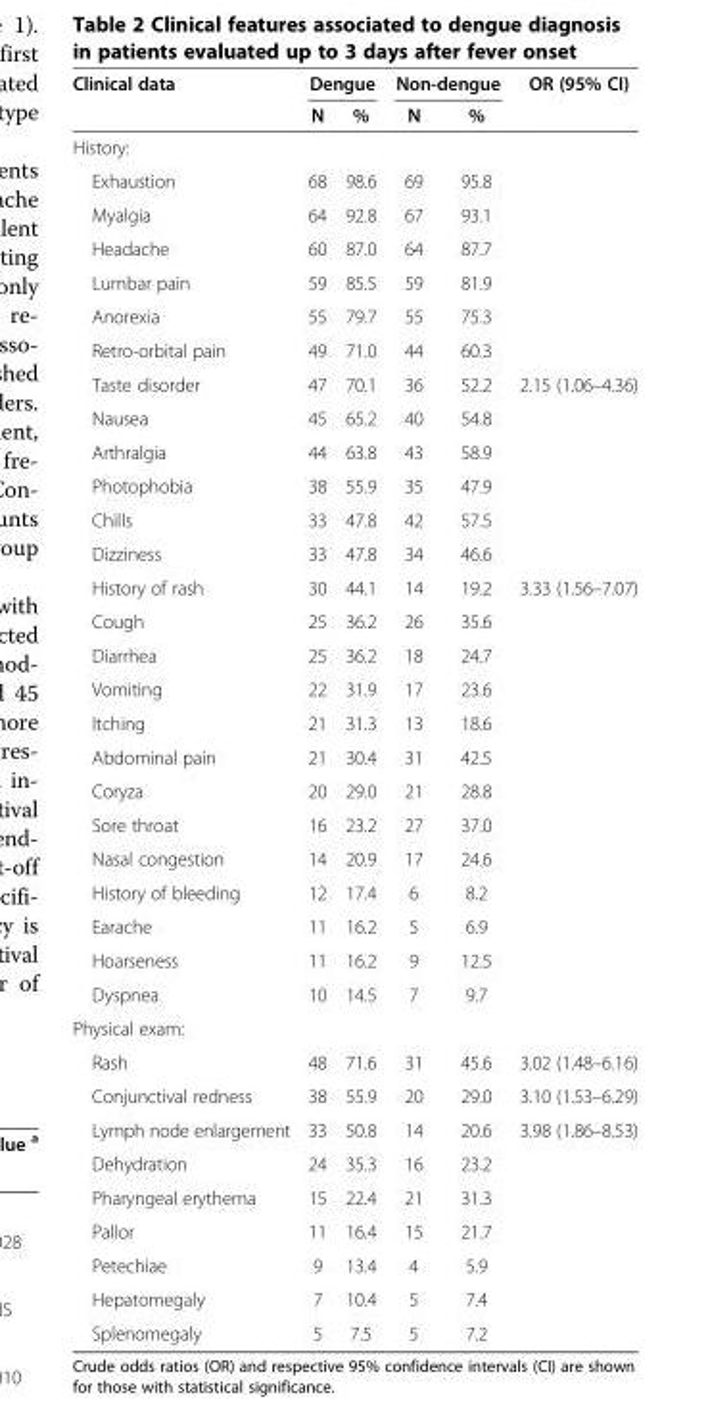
<table><thead><tr><td rowspan="2">Clinical data</td><td colspan="2">Dengue</td><td colspan="2">Non-dengue</td><td rowspan="2">OR (95% CI)</td></tr><tr><td>N</td><td>%</td><td>N</td><td>%</td></tr></thead><tbody><tr><td colspan="6">History:</td></tr><tr><td>Exhaustion</td><td>68</td><td>98.6</td><td>69</td><td>95.8</td><td></td></tr><tr><td>Myalgia</td><td>64</td><td>92.8</td><td>67</td><td>93.1</td><td></td></tr><tr><td>Headache</td><td>60</td><td>87.0</td><td>64</td><td>87.7</td><td></td></tr><tr><td>Lumbar pain</td><td>59</td><td>85.5</td><td>59</td><td>81.9</td><td></td></tr><tr><td>Anorexia</td><td>55</td><td>79.7</td><td>55</td><td>75.3</td><td></td></tr><tr><td>Retro-orbital pain</td><td>49</td><td>71.0</td><td>44</td><td>60.3</td><td></td></tr><tr><td>Taste disorder</td><td>47</td><td>70.1</td><td>36</td><td>52.2</td><td>2.15 (1.06–4.36)</td></tr><tr><td>Nausea</td><td>45</td><td>65.2</td><td>40</td><td>54.8</td><td></td></tr><tr><td>Arthralgia</td><td>44</td><td>63.8</td><td>43</td><td>58.9</td><td></td></tr><tr><td>Photophobia</td><td>38</td><td>55.9</td><td>35</td><td>47.9</td><td></td></tr><tr><td>Chills</td><td>33</td><td>47.8</td><td>42</td><td>57.5</td><td></td></tr><tr><td>Dizziness</td><td>33</td><td>47.8</td><td>34</td><td>46.6</td><td></td></tr><tr><td>History of rash</td><td>30</td><td>44.1</td><td>14</td><td>19.2</td><td>3.33 (1.56–7.07)</td></tr><tr><td>Cough</td><td>25</td><td>36.2</td><td>26</td><td>35.6</td><td></td></tr><tr><td>Diarrhea</td><td>25</td><td>36.2</td><td>18</td><td>24.7</td><td></td></tr><tr><td>Vomiting</td><td>22</td><td>31.9</td><td>17</td><td>23.6</td><td></td></tr><tr><td>Itching</td><td>21</td><td>31.3</td><td>13</td><td>18.6</td><td></td></tr><tr><td>Abdominal pain</td><td>21</td><td>30.4</td><td>31</td><td>42.5</td><td></td></tr><tr><td>Coryza</td><td>20</td><td>29.0</td><td>21</td><td>28.8</td><td></td></tr><tr><td>Sore throat</td><td>16</td><td>23.2</td><td>27</td><td>37.0</td><td></td></tr><tr><td>Nasal congestion</td><td>14</td><td>20.9</td><td>17</td><td>24.6</td><td></td></tr><tr><td>History of bleeding</td><td>12</td><td>17.4</td><td>6</td><td>8.2</td><td></td></tr><tr><td>Earache</td><td>11</td><td>16.2</td><td>5</td><td>6.9</td><td></td></tr><tr><td>Hoarseness</td><td>11</td><td>16.2</td><td>9</td><td>12.5</td><td></td></tr><tr><td>Dyspnea</td><td>10</td><td>14.5</td><td>7</td><td>9.7</td><td></td></tr><tr><td colspan="6">Physical exam:</td></tr><tr><td>Rash</td><td>48</td><td>71.6</td><td>31</td><td>45.6</td><td>3.02 (1.48–6.16)</td></tr><tr><td>Conjunctival redness</td><td>38</td><td>55.9</td><td>20</td><td>29.0</td><td>3.10 (1.53–6.29)</td></tr><tr><td>Lymph node enlargement</td><td>33</td><td>50.8</td><td>14</td><td>20.6</td><td>3.98 (1.86–8.53)</td></tr><tr><td>Dehydration</td><td>24</td><td>35.3</td><td>16</td><td>23.2</td><td></td></tr><tr><td>Pharyngeal erythema</td><td>15</td><td>22.4</td><td>21</td><td>31.3</td><td></td></tr><tr><td>Pallor</td><td>11</td><td>16.4</td><td>15</td><td>21.7</td><td></td></tr><tr><td>Petechiae</td><td>9</td><td>13.4</td><td>4</td><td>5.9</td><td></td></tr><tr><td>Hepatomegaly</td><td>7</td><td>10.4</td><td>5</td><td>7.4</td><td></td></tr><tr><td>Splenomegaly</td><td>5</td><td>7.5</td><td>5</td><td>7.2</td><td></td></tr></tbody></table>